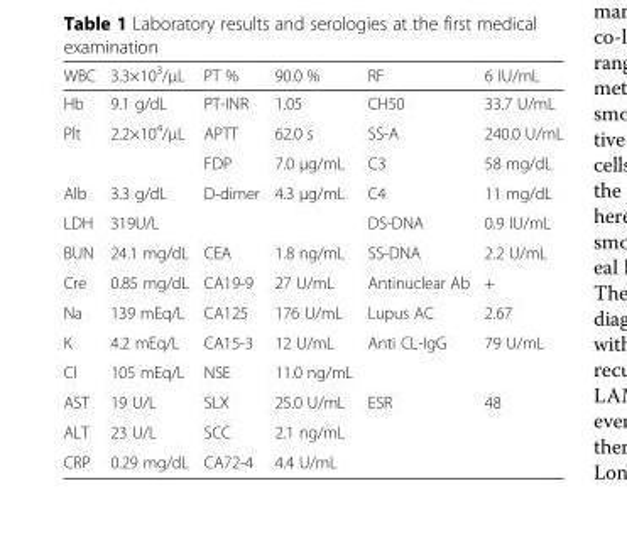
<table><thead><tr><td>WBC</td><td>3.3×10<sup>3</sup>/μL</td><td>PT %</td><td>90.0 %</td><td>RF</td><td>6 IU/mL</td></tr></thead><tbody><tr><td>Hb</td><td>9.1 g/dL</td><td>PT-INR</td><td>1.05</td><td>CH50</td><td>33.7 U/mL</td></tr><tr><td>Plt</td><td>2.2×10<sup>4</sup>/μL</td><td>APTT</td><td>62.0 s</td><td>SS-A</td><td>240.0 U/mL</td></tr><tr><td colspan="2"></td><td>FDP</td><td>7.0 μg/mL</td><td>C3</td><td>58 mg/dL</td></tr><tr><td>Alb</td><td>3.3 g/dL</td><td>D-dimer</td><td>4.3 μg/mL</td><td>C4</td><td>11 mg/dL</td></tr><tr><td>LDH</td><td>319U/L</td><td colspan="2"></td><td>DS-DNA</td><td>0.9 IU/mL</td></tr><tr><td>BUN</td><td>24.1 mg/dL</td><td>CEA</td><td>1.8 ng/mL</td><td>SS-DNA</td><td>2.2 U/mL</td></tr><tr><td>Cre</td><td>0.85 mg/dL</td><td>CA19-9</td><td>27 U/mL</td><td>Antinuclear Ab</td><td>+</td></tr><tr><td>Na</td><td>139 mEq/L</td><td>CA125</td><td>176 U/mL</td><td>Lupus AC</td><td>2.67</td></tr><tr><td>K</td><td>4.2 mEq/L</td><td>CA15-3</td><td>12 U/mL</td><td>Anti CL-IgG</td><td>79 U/mL</td></tr><tr><td>Cl</td><td>105 mEq/L</td><td>NSE</td><td>11.0 ng/mL</td><td colspan="2"></td></tr><tr><td>AST</td><td>19 U/L</td><td>SLX</td><td>25.0 U/mL</td><td>ESR</td><td>48</td></tr><tr><td>ALT</td><td>23 U/L</td><td>SCC</td><td>2.1 ng/mL</td><td></td><td></td></tr><tr><td>CRP</td><td>0.29 mg/dL</td><td>CA72-4</td><td>4.4 U/mL</td><td></td><td></td></tr></tbody></table>